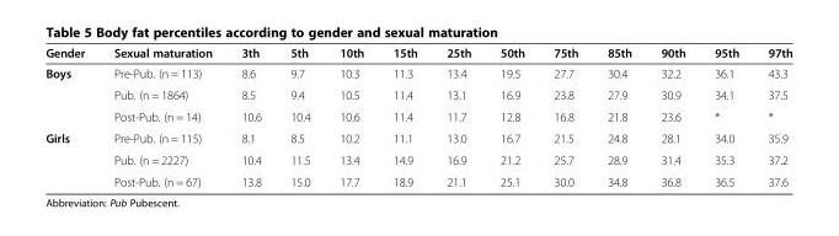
<table><thead><tr><td>Gender</td><td>Sexual maturation</td><td>3th</td><td>5th</td><td>10th</td><td>15th</td><td>25th</td><td>50th</td><td>75th</td><td>85th</td><td>90th</td><td>95th</td><td>97th</td></tr></thead><tbody><tr><td rowspan="3">Boys</td><td>Pre-Pub. (n = 113)</td><td>8.6</td><td>9.7</td><td>10.3</td><td>11.3</td><td>13.4</td><td>19.5</td><td>27.7</td><td>30.4</td><td>32.2</td><td>36.1</td><td>43.3</td></tr><tr><td>Pub. (n = 1864)</td><td>8.5</td><td>9.4</td><td>10.5</td><td>11.4</td><td>13.1</td><td>16.9</td><td>23.8</td><td>27.9</td><td>30.9</td><td>34.1</td><td>37.5</td></tr><tr><td>Post-Pub. (n = 14)</td><td>10.6</td><td>10.4</td><td>10.6</td><td>11.4</td><td>11.7</td><td>12.8</td><td>16.8</td><td>21.8</td><td>23.6</td><td>*</td><td>*</td></tr><tr><td rowspan="3">Girls</td><td>Pre-Pub. (n = 115)</td><td>8.1</td><td>8.5</td><td>10.2</td><td>11.1</td><td>13.0</td><td>16.7</td><td>21.5</td><td>24.8</td><td>28.1</td><td>34.0</td><td>35.9</td></tr><tr><td>Pub. (n = 2227)</td><td>10.4</td><td>11.5</td><td>13.4</td><td>14.9</td><td>16.9</td><td>21.2</td><td>25.7</td><td>28.9</td><td>31.4</td><td>35.3</td><td>37.2</td></tr><tr><td>Post-Pub. (n = 67)</td><td>13.8</td><td>15.0</td><td>17.7</td><td>18.9</td><td>21.1</td><td>25.1</td><td>30.0</td><td>34.8</td><td>36.8</td><td>36.5</td><td>37.6</td></tr></tbody></table>